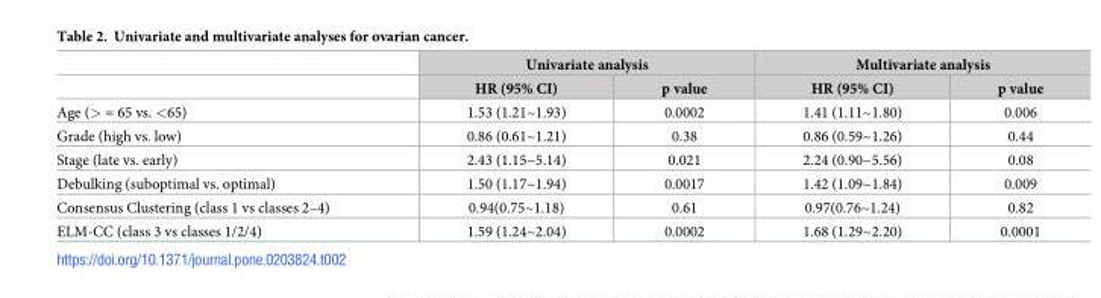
<table><thead><tr><td rowspan="2"></td><td colspan="2">Univariate analysis</td><td colspan="2">Multivariate analysis</td></tr><tr><td>HR (95% CI)</td><td>p value</td><td>HR (95% CI)</td><td>p value</td></tr></thead><tbody><tr><td>Age (&gt; = 65 vs. &lt;65)</td><td>1.53 (1.21~1.93)</td><td>0.0002</td><td>1.41 (1.11~1.80)</td><td>0.006</td></tr><tr><td>Grade (high vs. low)</td><td>0.86 (0.61~1.21)</td><td>0.38</td><td>0.86 (0.59~1.26)</td><td>0.44</td></tr><tr><td>Stage (late vs. early)</td><td>2.43 (1.15~5.14)</td><td>0.021</td><td>2.24 (0.90~5.56)</td><td>0.08</td></tr><tr><td>Debulking (suboptimal vs. optimal)</td><td>1.50 (1.17~1.94)</td><td>0.0017</td><td>1.42 (1.09~1.84)</td><td>0.009</td></tr><tr><td>Consensus Clustering (class 1 vs classes 2–4)</td><td>0.94(0.75~1.18)</td><td>0.61</td><td>0.97(0.76~1.24)</td><td>0.82</td></tr><tr><td>ELM-CC (class 3 vs classes 1/2/4)</td><td>1.59 (1.24~2.04)</td><td>0.0002</td><td>1.68 (1.29~2.20)</td><td>0.0001</td></tr></tbody></table>